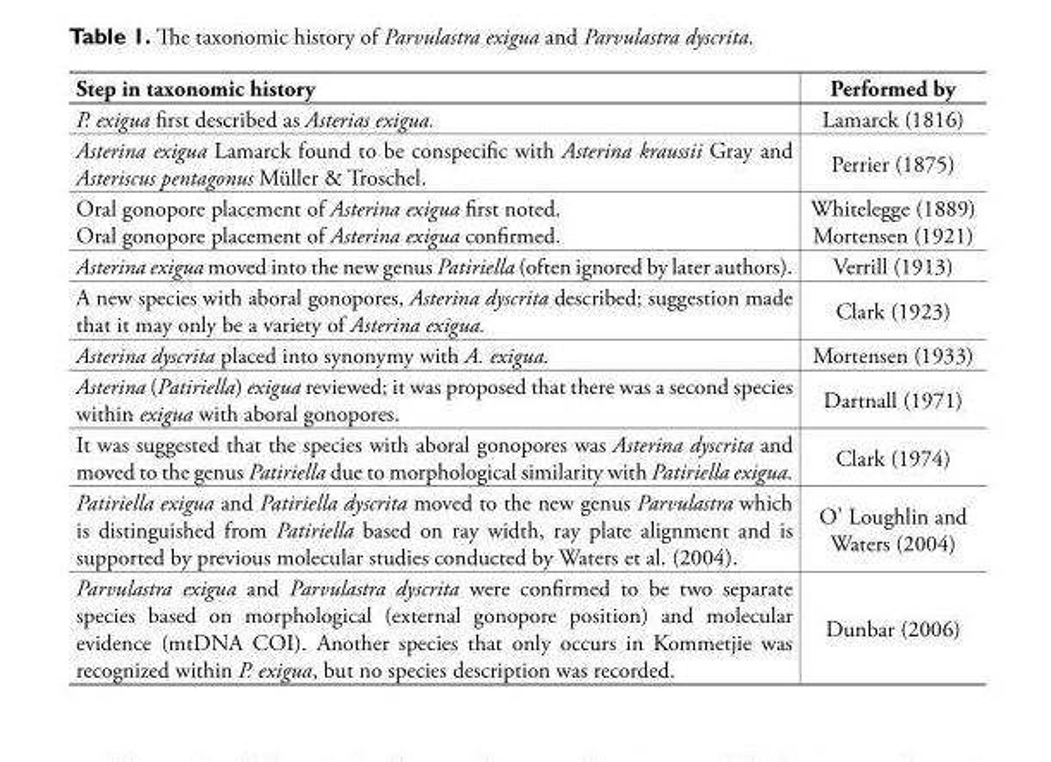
<table><thead><tr><td>Step in taxonomic history</td><td>Performed by</td></tr></thead><tbody><tr><td>P. exigua first described as Asterias exigua.</td><td>Lamarck (1816)</td></tr><tr><td>Asterina exigua Lamarck found to be conspecific with Asterina kraussii Gray and Asteriscus pentagonus Müller &amp; Troschel.</td><td>Perrier (1875)</td></tr><tr><td>Oral gonopore placement of Asterina exigua first noted. Oral gonopore placement of Asterina exigua confirmed.</td><td>Whitelegge (1889) Mortensen (1921)</td></tr><tr><td>Asterina exigua moved into the new genus Patiriella (often ignored by later authors).</td><td>Verrill (1913)</td></tr><tr><td>A new species with aboral gonopores, Asterina dyscrita described; suggestion made that it may only be a variety of Asterina exigua.</td><td>Clark (1923)</td></tr><tr><td>Asterina dyscrita placed into synonymy with A. exigua.</td><td>Mortensen (1933)</td></tr><tr><td>Asterina (Patiriella) exigua reviewed; it was proposed that there was a second species within exigua with aboral gonopores.</td><td>Dartnall (1971)</td></tr><tr><td>It was suggested that the species with aboral gonopores was Asterina dyscrita and moved to the genus Patiriella due to morphological similarity with Patiriella exigua.</td><td>Clark (1974)</td></tr><tr><td>Patiriella exigua and Patiriella dyscrita moved to the new genus Parvulastra which is distinguished from Patiriella based on ray width, ray plate alignment and is supported by previous molecular studies conducted by Waters et al. (2004).</td><td>O’ Loughlin and Waters (2004)</td></tr><tr><td>Parvulastra exigua and Parvulastra dyscrita were confirmed to be two separate species based on morphological (external gonopore position) and molecular evidence (mtDNA COI). Another species that only occurs in Kommetjie was recognized within P. exigua, but no species description was recorded.</td><td>Dunbar (2006)</td></tr></tbody></table>